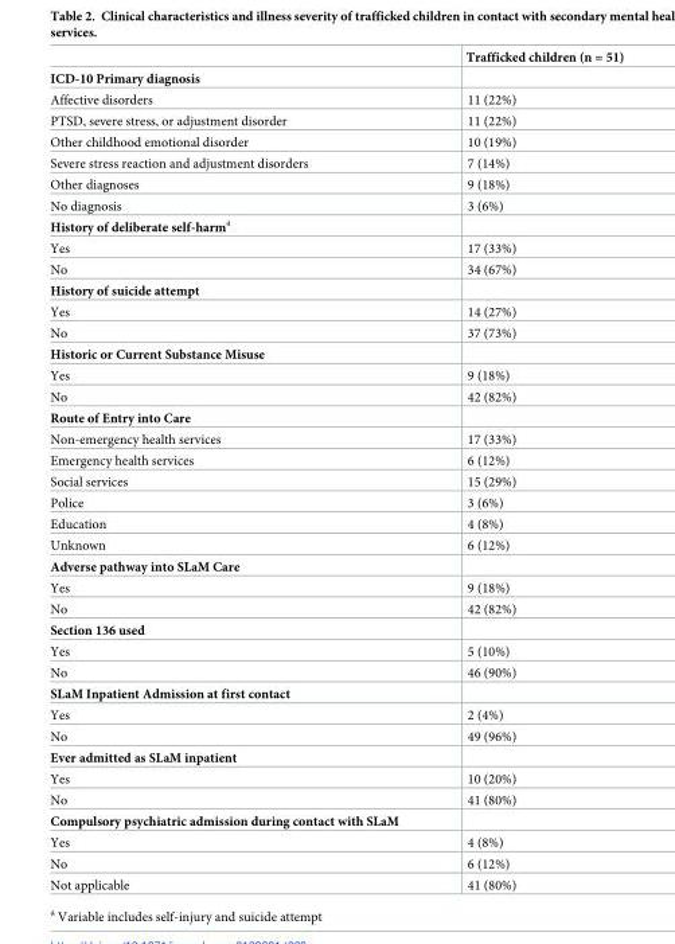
<table><thead><tr><td></td><td>Trafficked children (n = 51)</td></tr></thead><tbody><tr><td colspan="2">ICD-10 Primary diagnosis</td></tr><tr><td>Affective disorders</td><td>11 (22%)</td></tr><tr><td>PTSD, severe stress, or adjustment disorder</td><td>11 (22%)</td></tr><tr><td>Other childhood emotional disorder</td><td>10 (19%)</td></tr><tr><td>Severe stress reaction and adjustment disorders</td><td>7 (14%)</td></tr><tr><td>Other diagnoses</td><td>9 (18%)</td></tr><tr><td>No diagnosis</td><td>3 (6%)</td></tr><tr><td colspan="2">History of deliberate self-harm<sup>a</sup></td></tr><tr><td>Yes</td><td>17 (33%)</td></tr><tr><td>No</td><td>34 (67%)</td></tr><tr><td colspan="2">History of suicide attempt</td></tr><tr><td>Yes</td><td>14 (27%)</td></tr><tr><td>No</td><td>37 (73%)</td></tr><tr><td colspan="2">Historic or Current Substance Misuse</td></tr><tr><td>Yes</td><td>9 (18%)</td></tr><tr><td>No</td><td>42 (82%)</td></tr><tr><td colspan="2">Route of Entry into Care</td></tr><tr><td>Non-emergency health services</td><td>17 (33%)</td></tr><tr><td>Emergency health services</td><td>6 (12%)</td></tr><tr><td>Social services</td><td>15 (29%)</td></tr><tr><td>Police</td><td>3 (6%)</td></tr><tr><td>Education</td><td>4 (8%)</td></tr><tr><td>Unknown</td><td>6 (12%)</td></tr><tr><td colspan="2">Adverse pathway into SLaM Care</td></tr><tr><td>Yes</td><td>9 (18%)</td></tr><tr><td>No</td><td>42 (82%)</td></tr><tr><td colspan="2">Section 136 used</td></tr><tr><td>Yes</td><td>5 (10%)</td></tr><tr><td>No</td><td>46 (90%)</td></tr><tr><td colspan="2">SLaM Inpatient Admission at first contact</td></tr><tr><td>Yes</td><td>2 (4%)</td></tr><tr><td>No</td><td>49 (96%)</td></tr><tr><td colspan="2">Ever admitted as SLaM inpatient</td></tr><tr><td>Yes</td><td>10 (20%)</td></tr><tr><td>No</td><td>41 (80%)</td></tr><tr><td colspan="2">Compulsory psychiatric admission during contact with SLaM</td></tr><tr><td>Yes</td><td>4 (8%)</td></tr><tr><td>No</td><td>6 (12%)</td></tr><tr><td>Not applicable</td><td>41 (80%)</td></tr></tbody></table>